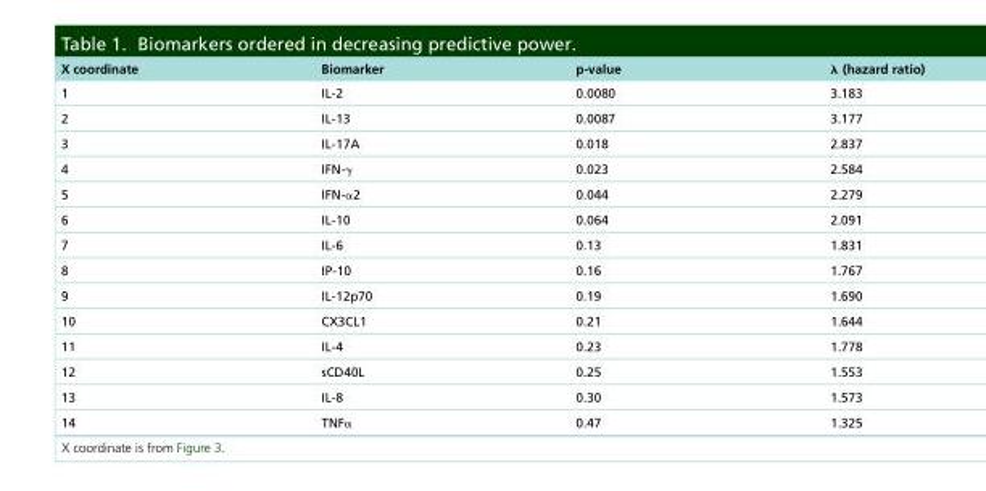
<table><thead><tr><td>X coordinate</td><td>Biomarker</td><td>p-value</td><td>λ (hazard ratio)</td></tr></thead><tbody><tr><td>1</td><td>IL-2</td><td>0.0080</td><td>3.183</td></tr><tr><td>2</td><td>IL-13</td><td>0.0087</td><td>3.177</td></tr><tr><td>3</td><td>IL-17A</td><td>0.018</td><td>2.837</td></tr><tr><td>4</td><td>IFN-γ</td><td>0.023</td><td>2.584</td></tr><tr><td>5</td><td>IFN-α2</td><td>0.044</td><td>2.279</td></tr><tr><td>6</td><td>IL-10</td><td>0.064</td><td>2.091</td></tr><tr><td>7</td><td>IL-6</td><td>0.13</td><td>1.831</td></tr><tr><td>8</td><td>IP-10</td><td>0.16</td><td>1.767</td></tr><tr><td>9</td><td>IL-12p70</td><td>0.19</td><td>1.690</td></tr><tr><td>10</td><td>CX3CL1</td><td>0.21</td><td>1.644</td></tr><tr><td>11</td><td>IL-4</td><td>0.23</td><td>1.778</td></tr><tr><td>12</td><td>sCD40L</td><td>0.25</td><td>1.553</td></tr><tr><td>13</td><td>IL-8</td><td>0.30</td><td>1.573</td></tr><tr><td>14</td><td>TNFα</td><td>0.47</td><td>1.325</td></tr></tbody></table>